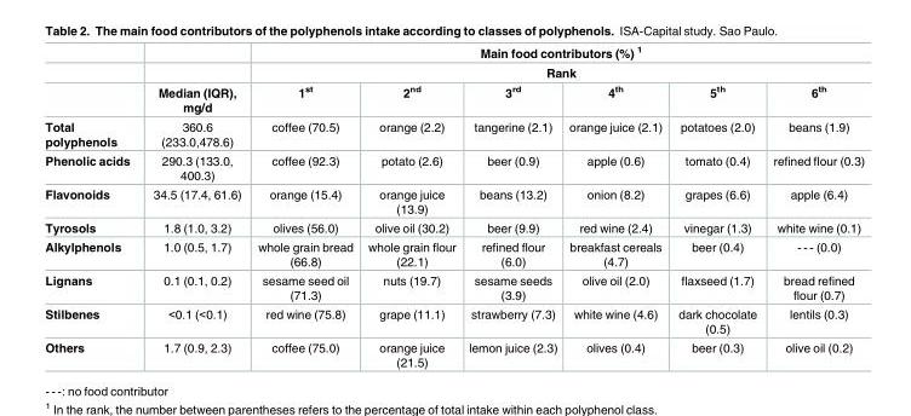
<table><thead><tr><td rowspan="3"></td><td rowspan="3">Median (IQR), mg/d</td><td rowspan="2" colspan="6">Main food contributors (%) <sup>1</sup> Rank</td></tr><tr></tr><tr><td>1<sup>st</sup></td><td>2<sup>nd</sup></td><td>3<sup>rd</sup></td><td>4<sup>th</sup></td><td>5<sup>th</sup></td><td>6<sup>th</sup></td></tr></thead><tbody><tr><td>Total polyphenols</td><td>360.6 (233.0,478.6)</td><td>coffee (70.5)</td><td>orange (2.2)</td><td>tangerine (2.1)</td><td>orange juice (2.1)</td><td>potatoes (2.0)</td><td>beans (1.9)</td></tr><tr><td>Phenolic acids</td><td>290.3 (133.0, 400.3)</td><td>coffee (92.3)</td><td>potato (2.6)</td><td>beer (0.9)</td><td>apple (0.6)</td><td>tomato (0.4)</td><td>refined flour (0.3)</td></tr><tr><td>Flavonoids</td><td>34.5 (17.4, 61.6)</td><td>orange (15.4)</td><td>orange juice (13.9)</td><td>beans (13.2)</td><td>onion (8.2)</td><td>grapes (6.6)</td><td>apple (6.4)</td></tr><tr><td>Tyrosols</td><td>1.8 (1.0, 3.2)</td><td>olives (56.0)</td><td>olive oil (30.2)</td><td>beer (9.9)</td><td>red wine (2.4)</td><td>vinegar (1.3)</td><td>white wine (0.1)</td></tr><tr><td>Alkylphenols</td><td>1.0 (0.5, 1.7)</td><td>whole grain bread (66.8)</td><td>whole grain flour (22.1)</td><td>refined flour (6.0)</td><td>breakfast cereals (4.7)</td><td>beer (0.4)</td><td>- - - (0.0)</td></tr><tr><td>Lignans</td><td>0.1 (0.1, 0.2)</td><td>sesame seed oil (71.3)</td><td>nuts (19.7)</td><td>sesame seeds (3.9)</td><td>olive oil (2.0)</td><td>flaxseed (1.7)</td><td>bread refined flour (0.7)</td></tr><tr><td>Stilbenes</td><td>&lt;0.1 (&lt;0.1)</td><td>red wine (75.8)</td><td>grape (11.1)</td><td>strawberry (7.3)</td><td>white wine (4.6)</td><td>dark chocolate (0.5)</td><td>lentils (0.3)</td></tr><tr><td>Others</td><td>1.7 (0.9, 2.3)</td><td>coffee (75.0)</td><td>orange juice (21.5)</td><td>lemon juice (2.3)</td><td>olives (0.4)</td><td>beer (0.3)</td><td>olive oil (0.2)</td></tr></tbody></table>